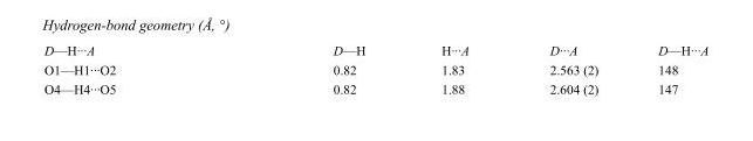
<table><tbody><tr><td>D—H···A</td><td>D—H</td><td>H···A</td><td>D···A</td><td>D—H···A</td></tr><tr><td>O1—H1···O2</td><td>0.82</td><td>1.83</td><td>2.563 (2)</td><td>148</td></tr><tr><td>O4—H4···O5</td><td>0.82</td><td>1.88</td><td>2.604 (2)</td><td>147</td></tr></tbody></table>